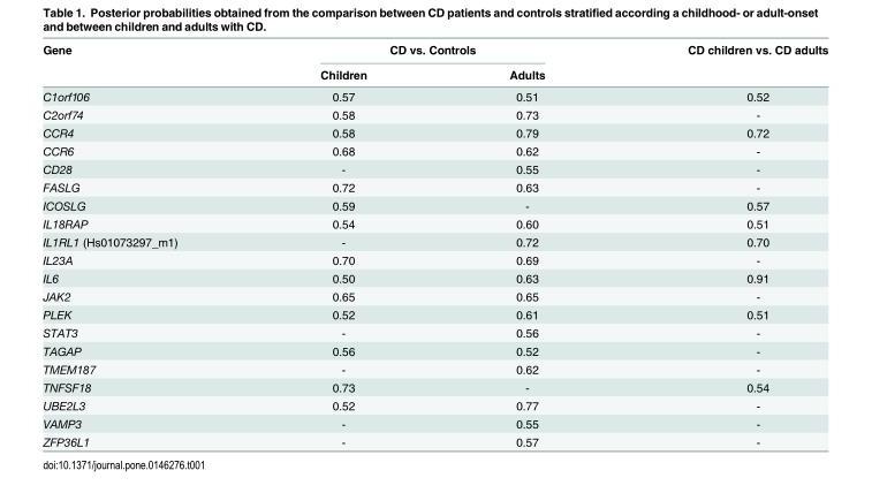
<table><thead><tr><td rowspan="2">Gene</td><td colspan="2">CD vs. Controls</td><td rowspan="2">CD children vs. CD adults</td></tr><tr><td>Children</td><td>Adults</td></tr></thead><tbody><tr><td>C1orf106</td><td>0.57</td><td>0.51</td><td>0.52</td></tr><tr><td>C2orf74</td><td>0.58</td><td>0.73</td><td>-</td></tr><tr><td>CCR4</td><td>0.58</td><td>0.79</td><td>0.72</td></tr><tr><td>CCR6</td><td>0.68</td><td>0.62</td><td>-</td></tr><tr><td>CD28</td><td>-</td><td>0.55</td><td>-</td></tr><tr><td>FASLG</td><td>0.72</td><td>0.63</td><td>-</td></tr><tr><td>ICOSLG</td><td>0.59</td><td>-</td><td>0.57</td></tr><tr><td>IL18RAP</td><td>0.54</td><td>0.60</td><td>0.51</td></tr><tr><td>IL1RL1 (Hs01073297_m1)</td><td>-</td><td>0.72</td><td>0.70</td></tr><tr><td>IL23A</td><td>0.70</td><td>0.69</td><td>-</td></tr><tr><td>IL6</td><td>0.50</td><td>0.63</td><td>0.91</td></tr><tr><td>JAK2</td><td>0.65</td><td>0.65</td><td>-</td></tr><tr><td>PLEK</td><td>0.52</td><td>0.61</td><td>0.51</td></tr><tr><td>STAT3</td><td>-</td><td>0.56</td><td>-</td></tr><tr><td>TAGAP</td><td>0.56</td><td>0.52</td><td>-</td></tr><tr><td>TMEM187</td><td>-</td><td>0.62</td><td>-</td></tr><tr><td>TNFSF18</td><td>0.73</td><td>-</td><td>0.54</td></tr><tr><td>UBE2L3</td><td>0.52</td><td>0.77</td><td>-</td></tr><tr><td>VAMP3</td><td>-</td><td>0.55</td><td>-</td></tr><tr><td>ZFP36L1</td><td>-</td><td>0.57</td><td>-</td></tr></tbody></table>